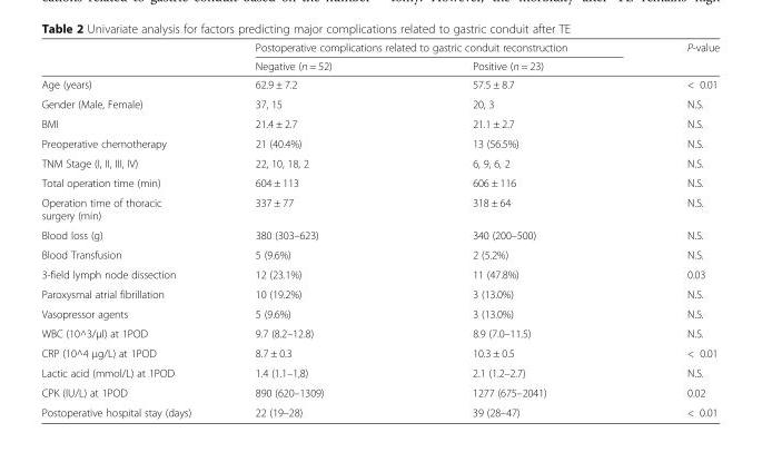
<table><thead><tr><td rowspan="2"></td><td colspan="2">Postoperative complications related to gastric conduit reconstruction</td><td rowspan="2">P-value</td></tr><tr><td>Negative (n = 52)</td><td>Positive (n = 23)</td></tr></thead><tbody><tr><td>Age (years)</td><td>62.9 ± 7.2</td><td>57.5 ± 8.7</td><td>&lt; 0.01</td></tr><tr><td>Gender (Male, Female)</td><td>37, 15</td><td>20, 3</td><td>N.S.</td></tr><tr><td>BMI</td><td>21.4 ± 2.7</td><td>21.1 ± 2.7</td><td>N.S.</td></tr><tr><td>Preoperative chemotherapy</td><td>21 (40.4%)</td><td>13 (56.5%)</td><td>N.S.</td></tr><tr><td>TNM Stage (I, II, III, IV)</td><td>22, 10, 18, 2</td><td>6, 9, 6, 2</td><td>N.S.</td></tr><tr><td>Total operation time (min)</td><td>604 ± 113</td><td>606 ± 116</td><td>N.S.</td></tr><tr><td>Operation time of thoracic surgery (min)</td><td>337 ± 77</td><td>318 ± 64</td><td>N.S.</td></tr><tr><td>Blood loss (g)</td><td>380 (303–623)</td><td>340 (200–500)</td><td>N.S.</td></tr><tr><td>Blood Transfusion</td><td>5 (9.6%)</td><td>2 (5.2%)</td><td>N.S.</td></tr><tr><td>3-field lymph node dissection</td><td>12 (23.1%)</td><td>11 (47.8%)</td><td>0.03</td></tr><tr><td>Paroxysmal atrial fibrillation</td><td>10 (19.2%)</td><td>3 (13.0%)</td><td>N.S.</td></tr><tr><td>Vasopressor agents</td><td>5 (9.6%)</td><td>3 (13.0%)</td><td>N.S.</td></tr><tr><td>WBC (10^3/μl) at 1POD</td><td>9.7 (8.2–12.8)</td><td>8.9 (7.0–11.5)</td><td>N.S.</td></tr><tr><td>CRP (10^4 μg/L) at 1POD</td><td>8.7 ± 0.3</td><td>10.3 ± 0.5</td><td>&lt; 0.01</td></tr><tr><td>Lactic acid (mmol/L) at 1POD</td><td>1.4 (1.1–1,8)</td><td>2.1 (1.2–2.7)</td><td>N.S.</td></tr><tr><td>CPK (IU/L) at 1POD</td><td>890 (620–1309)</td><td>1277 (675–2041)</td><td>0.02</td></tr><tr><td>Postoperative hospital stay (days)</td><td>22 (19–28)</td><td>39 (28–47)</td><td>&lt; 0.01</td></tr></tbody></table>